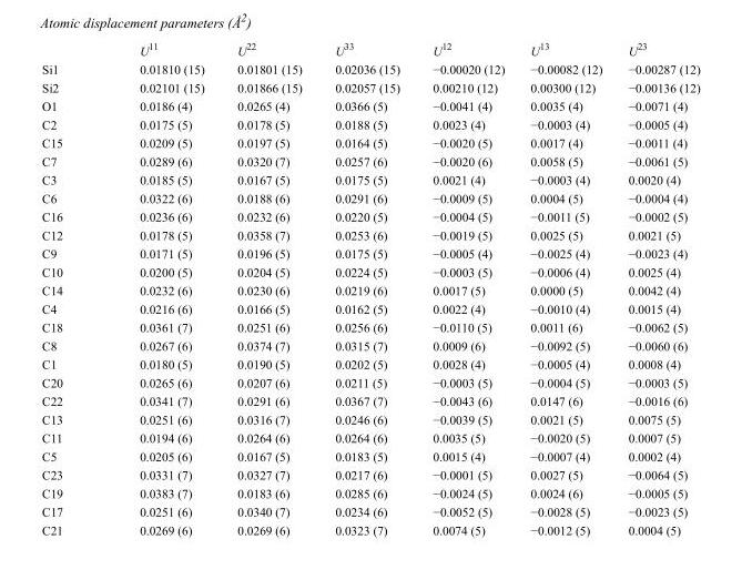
<table><thead><tr><td></td><td>U<sup>11</sup></td><td>U<sup>22</sup></td><td>U<sup>33</sup></td><td>U<sup>12</sup></td><td>U<sup>13</sup></td><td>U<sup>23</sup></td></tr></thead><tbody><tr><td>Si1</td><td>0.01810 (15)</td><td>0.01801 (15)</td><td>0.02036 (15)</td><td>−0.00020 (12)</td><td>−0.00082 (12)</td><td>−0.00287 (12)</td></tr><tr><td>Si2</td><td>0.02101 (15)</td><td>0.01866 (15)</td><td>0.02057 (15)</td><td>0.00210 (12)</td><td>0.00300 (12)</td><td>−0.00136 (12)</td></tr><tr><td>O1</td><td>0.0186 (4)</td><td>0.0265 (4)</td><td>0.0366 (5)</td><td>−0.0041 (4)</td><td>0.0035 (4)</td><td>−0.0071 (4)</td></tr><tr><td>C2</td><td>0.0175 (5)</td><td>0.0178 (5)</td><td>0.0188 (5)</td><td>0.0023 (4)</td><td>−0.0003 (4)</td><td>−0.0005 (4)</td></tr><tr><td>C15</td><td>0.0209 (5)</td><td>0.0197 (5)</td><td>0.0164 (5)</td><td>−0.0020 (5)</td><td>0.0017 (4)</td><td>−0.0011 (4)</td></tr><tr><td>C7</td><td>0.0289 (6)</td><td>0.0320 (7)</td><td>0.0257 (6)</td><td>−0.0020 (6)</td><td>0.0058 (5)</td><td>−0.0061 (5)</td></tr><tr><td>C3</td><td>0.0185 (5)</td><td>0.0167 (5)</td><td>0.0175 (5)</td><td>0.0021 (4)</td><td>−0.0003 (4)</td><td>0.0020 (4)</td></tr><tr><td>C6</td><td>0.0322 (6)</td><td>0.0188 (6)</td><td>0.0291 (6)</td><td>−0.0009 (5)</td><td>0.0004 (5)</td><td>−0.0004 (4)</td></tr><tr><td>C16</td><td>0.0236 (6)</td><td>0.0232 (6)</td><td>0.0220 (5)</td><td>−0.0004 (5)</td><td>−0.0011 (5)</td><td>−0.0002 (5)</td></tr><tr><td>C12</td><td>0.0178 (5)</td><td>0.0358 (7)</td><td>0.0253 (6)</td><td>−0.0019 (5)</td><td>0.0025 (5)</td><td>0.0021 (5)</td></tr><tr><td>C9</td><td>0.0171 (5)</td><td>0.0196 (5)</td><td>0.0175 (5)</td><td>−0.0005 (4)</td><td>−0.0025 (4)</td><td>−0.0023 (4)</td></tr><tr><td>C10</td><td>0.0200 (5)</td><td>0.0204 (5)</td><td>0.0224 (5)</td><td>−0.0003 (5)</td><td>−0.0006 (4)</td><td>0.0025 (4)</td></tr><tr><td>C14</td><td>0.0232 (6)</td><td>0.0230 (6)</td><td>0.0219 (6)</td><td>0.0017 (5)</td><td>0.0000 (5)</td><td>0.0042 (4)</td></tr><tr><td>C4</td><td>0.0216 (6)</td><td>0.0166 (5)</td><td>0.0162 (5)</td><td>0.0022 (4)</td><td>−0.0010 (4)</td><td>0.0015 (4)</td></tr><tr><td>C18</td><td>0.0361 (7)</td><td>0.0251 (6)</td><td>0.0256 (6)</td><td>−0.0110 (5)</td><td>0.0011 (6)</td><td>−0.0062 (5)</td></tr><tr><td>C8</td><td>0.0267 (6)</td><td>0.0374 (7)</td><td>0.0315 (7)</td><td>0.0009 (6)</td><td>−0.0092 (5)</td><td>−0.0060 (6)</td></tr><tr><td>C1</td><td>0.0180 (5)</td><td>0.0190 (5)</td><td>0.0202 (5)</td><td>0.0028 (4)</td><td>−0.0005 (4)</td><td>0.0008 (4)</td></tr><tr><td>C20</td><td>0.0265 (6)</td><td>0.0207 (6)</td><td>0.0211 (5)</td><td>−0.0003 (5)</td><td>−0.0004 (5)</td><td>−0.0003 (5)</td></tr><tr><td>C22</td><td>0.0341 (7)</td><td>0.0291 (6)</td><td>0.0367 (7)</td><td>−0.0043 (6)</td><td>0.0147 (6)</td><td>−0.0016 (6)</td></tr><tr><td>C13</td><td>0.0251 (6)</td><td>0.0316 (7)</td><td>0.0246 (6)</td><td>−0.0039 (5)</td><td>0.0021 (5)</td><td>0.0075 (5)</td></tr><tr><td>C11</td><td>0.0194 (6)</td><td>0.0264 (6)</td><td>0.0264 (6)</td><td>0.0035 (5)</td><td>−0.0020 (5)</td><td>0.0007 (5)</td></tr><tr><td>C5</td><td>0.0205 (6)</td><td>0.0167 (5)</td><td>0.0183 (5)</td><td>0.0015 (4)</td><td>−0.0007 (4)</td><td>0.0002 (4)</td></tr><tr><td>C23</td><td>0.0331 (7)</td><td>0.0327 (7)</td><td>0.0217 (6)</td><td>−0.0001 (5)</td><td>0.0027 (5)</td><td>−0.0064 (5)</td></tr><tr><td>C19</td><td>0.0383 (7)</td><td>0.0183 (6)</td><td>0.0285 (6)</td><td>−0.0024 (5)</td><td>0.0024 (6)</td><td>−0.0005 (5)</td></tr><tr><td>C17</td><td>0.0251 (6)</td><td>0.0340 (7)</td><td>0.0234 (6)</td><td>−0.0052 (5)</td><td>−0.0028 (5)</td><td>−0.0023 (5)</td></tr><tr><td>C21</td><td>0.0269 (6)</td><td>0.0269 (6)</td><td>0.0323 (7)</td><td>0.0074 (5)</td><td>−0.0012 (5)</td><td>0.0004 (5)</td></tr></tbody></table>